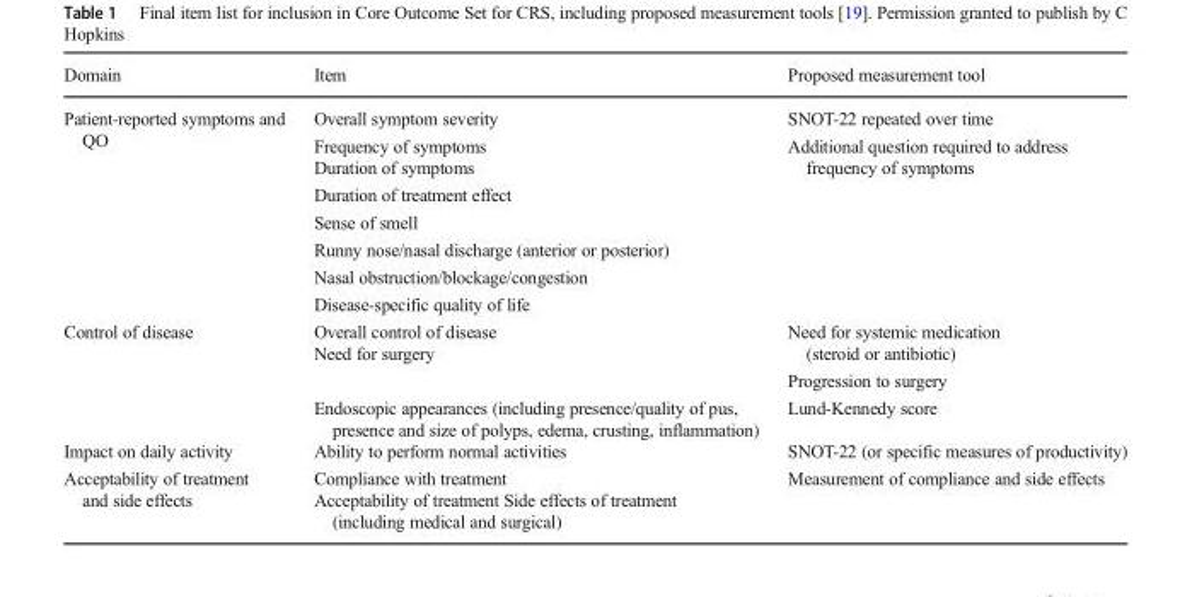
<table><thead><tr><td>Domain</td><td>Item</td><td>Proposed measurement tool</td></tr></thead><tbody><tr><td rowspan="8">Patient-reported symptoms and QO</td><td>Overall symptom severity</td><td>SNOT-22 repeated over time</td></tr><tr><td>Frequency of symptoms</td><td rowspan="7">Additional question required to address frequency of symptoms</td></tr><tr><td>Duration of symptoms</td></tr><tr><td>Duration of treatment effect</td></tr><tr><td>Sense of smell</td></tr><tr><td>Runny nose/nasal discharge (anterior or posterior)</td></tr><tr><td>Nasal obstruction/blockage/congestion</td></tr><tr><td>Disease-specific quality of life</td></tr><tr><td rowspan="4">Control of disease</td><td>Overall control of disease</td><td rowspan="2">Need for systemic medication (steroid or antibiotic)</td></tr><tr><td rowspan="2">Need for surgery</td></tr><tr><td>Progression to surgery</td></tr><tr><td>Endoscopic appearances (including presence/quality of pus, presence and size of polyps, edema, crusting, inflammation)</td><td>Lund-Kennedy score</td></tr><tr><td>Impact on daily activity</td><td>Ability to perform normal activities</td><td>SNOT-22 (or specific measures of productivity)</td></tr><tr><td rowspan="2">Acceptability of treatment and side effects</td><td>Compliance with treatment</td><td rowspan="2">Measurement of compliance and side effects</td></tr><tr><td>Acceptability of treatment Side effects of treatment (including medical and surgical)</td></tr></tbody></table>